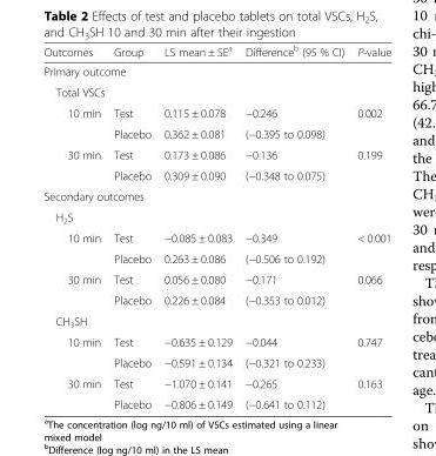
<table><thead><tr><td>Outcomes</td><td>Group</td><td>LS mean ± SE<sup>a</sup></td><td>Difference<sup>b</sup> (95 % CI)</td><td>P-value</td></tr></thead><tbody><tr><td colspan="5">Primary outcome</td></tr><tr><td colspan="5">Total VSCs</td></tr><tr><td rowspan="2">10 min</td><td>Test</td><td>0.115 ± 0.078</td><td>−0.246</td><td rowspan="2">0.002</td></tr><tr><td>Placebo</td><td>0.362 ± 0.081</td><td>(−0.395 to 0.098)</td></tr><tr><td rowspan="2">30 min</td><td>Test</td><td>0.173 ± 0.086</td><td>−0.136</td><td rowspan="2">0.199</td></tr><tr><td>Placebo</td><td>0.309 ± 0.090</td><td>(−0.348 to 0.075)</td></tr><tr><td colspan="5">Secondary outcomes</td></tr><tr><td colspan="5">H<sub>2</sub>S</td></tr><tr><td rowspan="2">10 min</td><td>Test</td><td>−0.085 ± 0.083</td><td>−0.349</td><td rowspan="2">&lt; 0.001</td></tr><tr><td>Placebo</td><td>0.263 ± 0.086</td><td>(−0.506 to 0.192)</td></tr><tr><td rowspan="2">30 min</td><td>Test</td><td>0.056 ± 0.080</td><td>−0.171</td><td rowspan="2">0.066</td></tr><tr><td>Placebo</td><td>0.226 ± 0.084</td><td>(−0.353 to 0.012)</td></tr><tr><td colspan="5">CH<sub>3</sub>SH</td></tr><tr><td rowspan="2">10 min</td><td>Test</td><td>−0.635 ± 0.129</td><td>−0.044</td><td rowspan="2">0.747</td></tr><tr><td>Placebo</td><td>−0.591 ± 0.134</td><td>(−0.321 to 0.233)</td></tr><tr><td rowspan="2">30 min</td><td>Test</td><td>−1.070 ± 0.141</td><td>−0.265</td><td rowspan="2">0.163</td></tr><tr><td>Placebo</td><td>−0.806 ± 0.149</td><td>(−0.641 to 0.112)</td></tr></tbody></table>